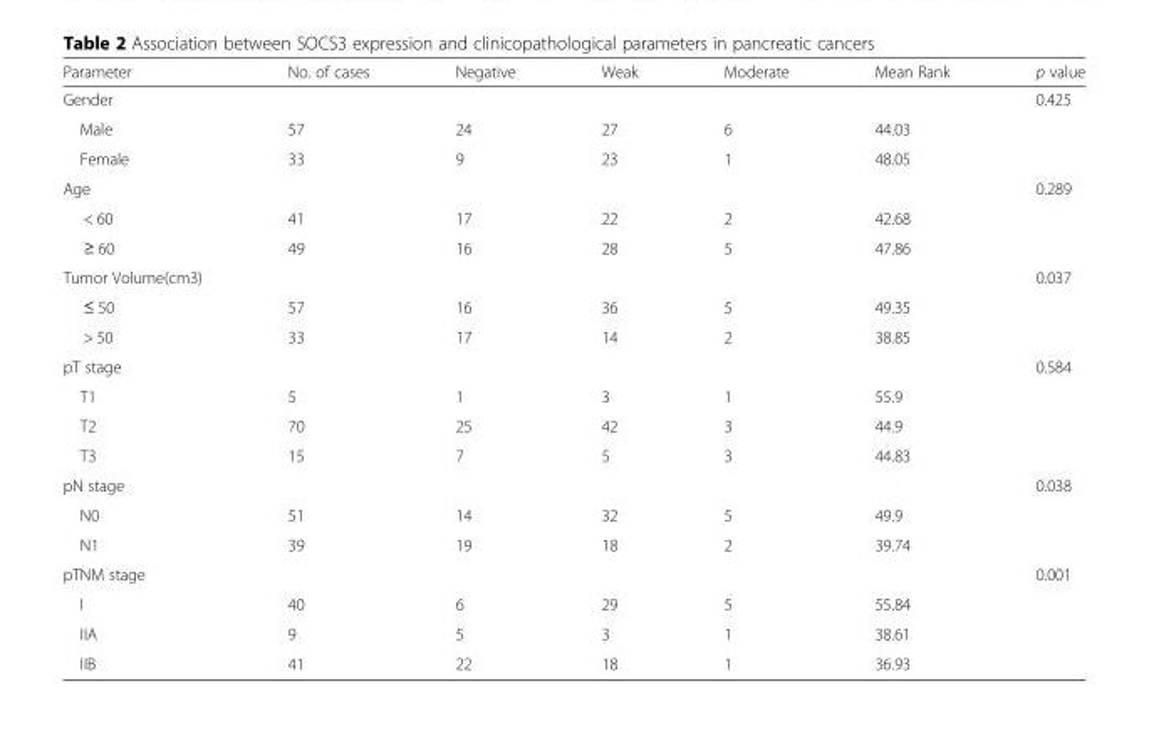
<table><thead><tr><td>Parameter</td><td>No. of cases</td><td>Negative</td><td>Weak</td><td>Moderate</td><td>Mean Rank</td><td>p value</td></tr></thead><tbody><tr><td>Gender</td><td></td><td></td><td></td><td></td><td></td><td>0.425</td></tr><tr><td>Male</td><td>57</td><td>24</td><td>27</td><td>6</td><td>44.03</td><td></td></tr><tr><td>Female</td><td>33</td><td>9</td><td>23</td><td>1</td><td>48.05</td><td></td></tr><tr><td>Age</td><td></td><td></td><td></td><td></td><td></td><td>0.289</td></tr><tr><td>&lt; 60</td><td>41</td><td>17</td><td>22</td><td>2</td><td>42.68</td><td></td></tr><tr><td>≥ 60</td><td>49</td><td>16</td><td>28</td><td>5</td><td>47.86</td><td></td></tr><tr><td>Tumor Volume(cm3)</td><td></td><td></td><td></td><td></td><td></td><td>0.037</td></tr><tr><td>≤ 50</td><td>57</td><td>16</td><td>36</td><td>5</td><td>49.35</td><td></td></tr><tr><td>&gt; 50</td><td>33</td><td>17</td><td>14</td><td>2</td><td>38.85</td><td></td></tr><tr><td>pT stage</td><td></td><td></td><td></td><td></td><td></td><td>0.584</td></tr><tr><td>T1</td><td>5</td><td>1</td><td>3</td><td>1</td><td>55.9</td><td></td></tr><tr><td>T2</td><td>70</td><td>25</td><td>42</td><td>3</td><td>44.9</td><td></td></tr><tr><td>T3</td><td>15</td><td>7</td><td>5</td><td>3</td><td>44.83</td><td></td></tr><tr><td>pN stage</td><td></td><td></td><td></td><td></td><td></td><td>0.038</td></tr><tr><td>N0</td><td>51</td><td>14</td><td>32</td><td>5</td><td>49.9</td><td></td></tr><tr><td>N1</td><td>39</td><td>19</td><td>18</td><td>2</td><td>39.74</td><td></td></tr><tr><td>pTNM stage</td><td></td><td></td><td></td><td></td><td></td><td>0.001</td></tr><tr><td>I</td><td>40</td><td>6</td><td>29</td><td>5</td><td>55.84</td><td></td></tr><tr><td>IIA</td><td>9</td><td>5</td><td>3</td><td>1</td><td>38.61</td><td></td></tr><tr><td>IIB</td><td>41</td><td>22</td><td>18</td><td>1</td><td>36.93</td><td></td></tr></tbody></table>